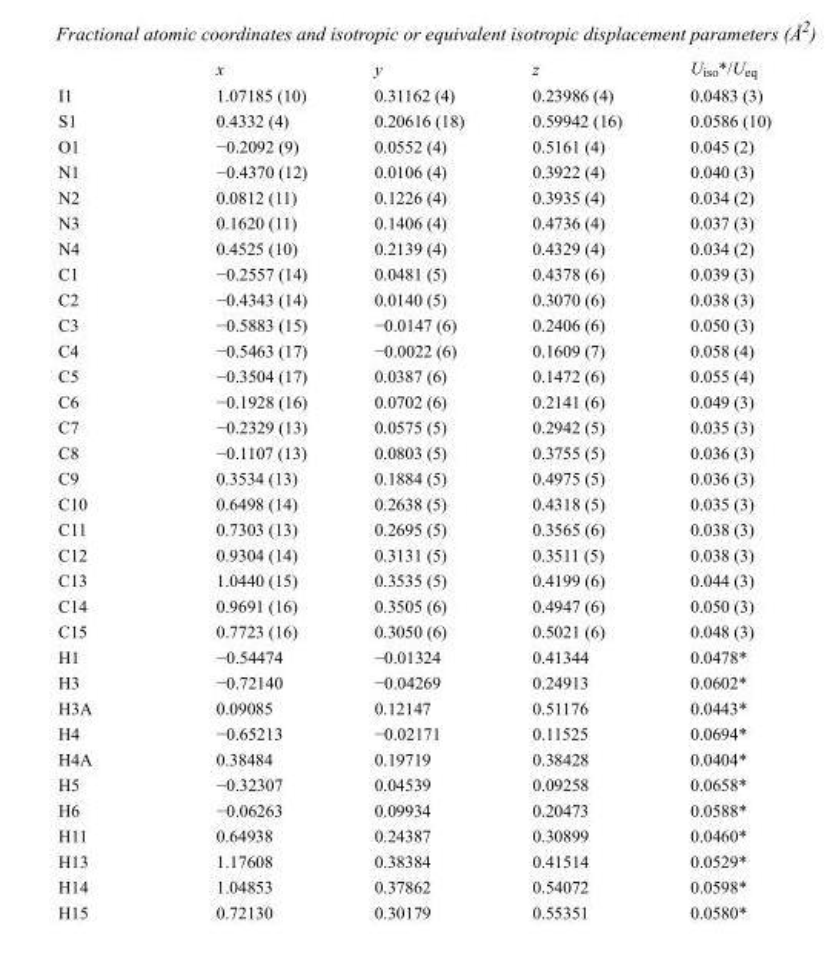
<table><thead><tr><td></td><td>x</td><td>y</td><td>z</td><td>U<sub>iso</sub>*/U<sub>eq</sub></td></tr></thead><tbody><tr><td>I1</td><td>1.07185 (10)</td><td>0.31162 (4)</td><td>0.23986 (4)</td><td>0.0483 (3)</td></tr><tr><td>S1</td><td>0.4332 (4)</td><td>0.20616 (18)</td><td>0.59942 (16)</td><td>0.0586 (10)</td></tr><tr><td>O1</td><td>−0.2092 (9)</td><td>0.0552 (4)</td><td>0.5161 (4)</td><td>0.045 (2)</td></tr><tr><td>N1</td><td>−0.4370 (12)</td><td>0.0106 (4)</td><td>0.3922 (4)</td><td>0.040 (3)</td></tr><tr><td>N2</td><td>0.0812 (11)</td><td>0.1226 (4)</td><td>0.3935 (4)</td><td>0.034 (2)</td></tr><tr><td>N3</td><td>0.1620 (11)</td><td>0.1406 (4)</td><td>0.4736 (4)</td><td>0.037 (3)</td></tr><tr><td>N4</td><td>0.4525 (10)</td><td>0.2139 (4)</td><td>0.4329 (4)</td><td>0.034 (2)</td></tr><tr><td>C1</td><td>−0.2557 (14)</td><td>0.0481 (5)</td><td>0.4378 (6)</td><td>0.039 (3)</td></tr><tr><td>C2</td><td>−0.4343 (14)</td><td>0.0140 (5)</td><td>0.3070 (6)</td><td>0.038 (3)</td></tr><tr><td>C3</td><td>−0.5883 (15)</td><td>−0.0147 (6)</td><td>0.2406 (6)</td><td>0.050 (3)</td></tr><tr><td>C4</td><td>−0.5463 (17)</td><td>−0.0022 (6)</td><td>0.1609 (7)</td><td>0.058 (4)</td></tr><tr><td>C5</td><td>−0.3504 (17)</td><td>0.0387 (6)</td><td>0.1472 (6)</td><td>0.055 (4)</td></tr><tr><td>C6</td><td>−0.1928 (16)</td><td>0.0702 (6)</td><td>0.2141 (6)</td><td>0.049 (3)</td></tr><tr><td>C7</td><td>−0.2329 (13)</td><td>0.0575 (5)</td><td>0.2942 (5)</td><td>0.035 (3)</td></tr><tr><td>C8</td><td>−0.1107 (13)</td><td>0.0803 (5)</td><td>0.3755 (5)</td><td>0.036 (3)</td></tr><tr><td>C9</td><td>0.3534 (13)</td><td>0.1884 (5)</td><td>0.4975 (5)</td><td>0.036 (3)</td></tr><tr><td>C10</td><td>0.6498 (14)</td><td>0.2638 (5)</td><td>0.4318 (5)</td><td>0.035 (3)</td></tr><tr><td>C11</td><td>0.7303 (13)</td><td>0.2695 (5)</td><td>0.3565 (6)</td><td>0.038 (3)</td></tr><tr><td>C12</td><td>0.9304 (14)</td><td>0.3131 (5)</td><td>0.3511 (5)</td><td>0.038 (3)</td></tr><tr><td>C13</td><td>1.0440 (15)</td><td>0.3535 (5)</td><td>0.4199 (6)</td><td>0.044 (3)</td></tr><tr><td>C14</td><td>0.9691 (16)</td><td>0.3505 (6)</td><td>0.4947 (6)</td><td>0.050 (3)</td></tr><tr><td>C15</td><td>0.7723 (16)</td><td>0.3050 (6)</td><td>0.5021 (6)</td><td>0.048 (3)</td></tr><tr><td>H1</td><td>−0.54474</td><td>−0.01324</td><td>0.41344</td><td>0.0478*</td></tr><tr><td>H3</td><td>−0.72140</td><td>−0.04269</td><td>0.24913</td><td>0.0602*</td></tr><tr><td>H3A</td><td>0.09085</td><td>0.12147</td><td>0.51176</td><td>0.0443*</td></tr><tr><td>H4</td><td>−0.65213</td><td>−0.02171</td><td>0.11525</td><td>0.0694*</td></tr><tr><td>H4A</td><td>0.38484</td><td>0.19719</td><td>0.38428</td><td>0.0404*</td></tr><tr><td>H5</td><td>−0.32307</td><td>0.04539</td><td>0.09258</td><td>0.0658*</td></tr><tr><td>H6</td><td>−0.06263</td><td>0.09934</td><td>0.20473</td><td>0.0588*</td></tr><tr><td>H11</td><td>0.64938</td><td>0.24387</td><td>0.30899</td><td>0.0460*</td></tr><tr><td>H13</td><td>1.17608</td><td>0.38384</td><td>0.41514</td><td>0.0529*</td></tr><tr><td>H14</td><td>1.04853</td><td>0.37862</td><td>0.54072</td><td>0.0598*</td></tr><tr><td>H15</td><td>0.72130</td><td>0.30179</td><td>0.55351</td><td>0.0580*</td></tr></tbody></table>